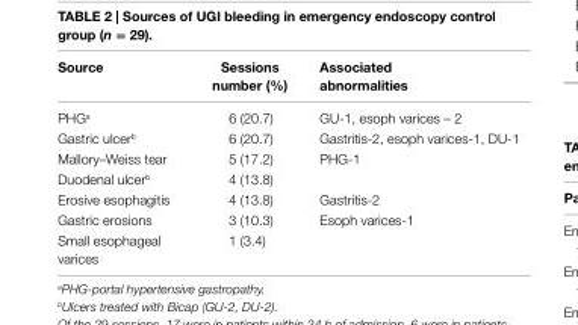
<table><thead><tr><td>source</td><td>sessions number (%)</td><td>associated abnormalities</td></tr></thead><tbody><tr><td>PHG<sup>a</sup></td><td>6 (20.7)</td><td>GU-1, esoph varices – 2</td></tr><tr><td>Gastric ulcer<sup>b</sup></td><td>6 (20.7)</td><td>Gastritis-2, esoph varices-1, DU-1</td></tr><tr><td>Mallory–Weiss tear</td><td>5 (17.2)</td><td>PHG-1</td></tr><tr><td>Duodenal ulcer<sup>b</sup></td><td>4 (13.8)</td><td></td></tr><tr><td>Erosive esophagitis</td><td>4 (13.8)</td><td>Gastritis-2</td></tr><tr><td>Gastric erosions</td><td>3 (10.3)</td><td>Esoph varices-1</td></tr><tr><td>Small esophageal varices</td><td>1 (3.4)</td><td></td></tr></tbody></table>